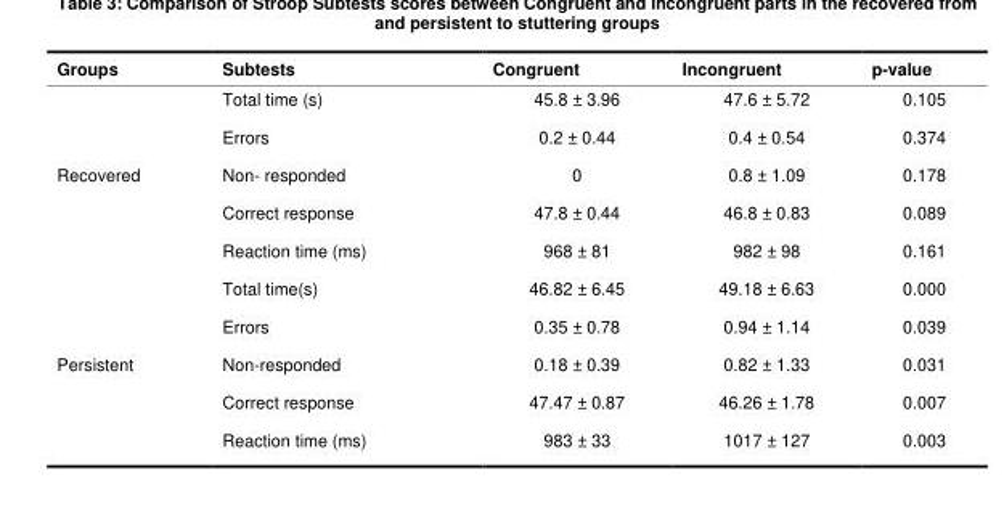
<table><thead><tr><td>Groups</td><td>Subtests</td><td>Congruent</td><td>Incongruent</td><td>p-value</td></tr></thead><tbody><tr><td rowspan="5">Recovered</td><td>Total time (s)</td><td>45.8 ± 3.96</td><td>47.6 ± 5.72</td><td>0.105</td></tr><tr><td>Errors</td><td>0.2 ± 0.44</td><td>0.4 ± 0.54</td><td>0.374</td></tr><tr><td>Non- responded</td><td>0</td><td>0.8 ± 1.09</td><td>0.178</td></tr><tr><td>Correct response</td><td>47.8 ± 0.44</td><td>46.8 ± 0.83</td><td>0.089</td></tr><tr><td>Reaction time (ms)</td><td>968 ± 81</td><td>982 ± 98</td><td>0.161</td></tr><tr><td rowspan="5">Persistent</td><td>Total time(s)</td><td>46.82 ± 6.45</td><td>49.18 ± 6.63</td><td>0.000</td></tr><tr><td>Errors</td><td>0.35 ± 0.78</td><td>0.94 ± 1.14</td><td>0.039</td></tr><tr><td>Non-responded</td><td>0.18 ± 0.39</td><td>0.82 ± 1.33</td><td>0.031</td></tr><tr><td>Correct response</td><td>47.47 ± 0.87</td><td>46.26 ± 1.78</td><td>0.007</td></tr><tr><td>Reaction time (ms)</td><td>983 ± 33</td><td>1017 ± 127</td><td>0.003</td></tr></tbody></table>